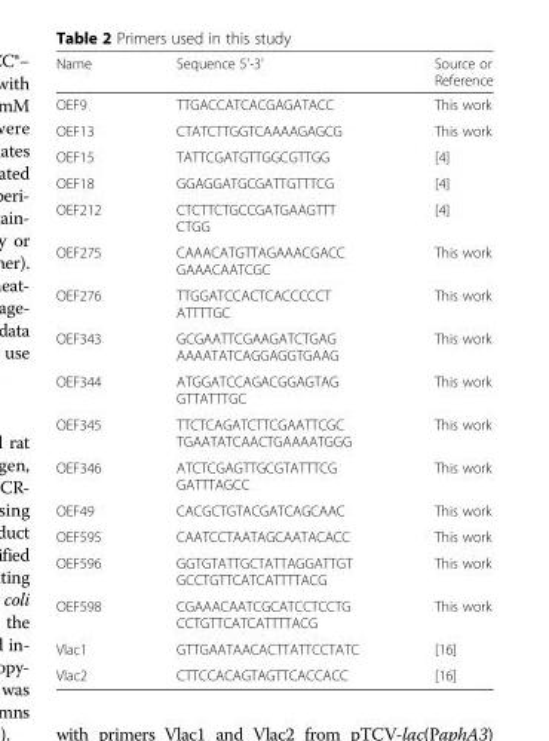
<table><thead><tr><td>Name</td><td>Sequence 5&#x27;-3&#x27;</td><td>Source or Reference</td></tr></thead><tbody><tr><td>OEF9</td><td>TTGACCATCACGAGATACC</td><td>This work</td></tr><tr><td>OEF13</td><td>CTATCTTGGTCAAAAGAGCG</td><td>This work</td></tr><tr><td>OEF15</td><td>TATTCGATGTTGGCGTTGG</td><td>[4]</td></tr><tr><td>OEF18</td><td>GGAGGATGCGATTGTTTCG</td><td>[4]</td></tr><tr><td>OEF212</td><td>CTCTTCTGCCGATGAAGTTT CTGG</td><td>[4]</td></tr><tr><td>OEF275</td><td>CAAACATGTTAGAAACGACC GAAACAATCGC</td><td>This work</td></tr><tr><td>OEF276</td><td>TTGGATCCACTCACCCCCT ATTTTGC</td><td>This work</td></tr><tr><td>OEF343</td><td>GCGAATTCGAAGATCTGAG AAAATATCAGGAGGTGAAG</td><td>This work</td></tr><tr><td>OEF344</td><td>ATGGATCCAGACGGAGTAG GTTATTTGC</td><td>This work</td></tr><tr><td>OEF345</td><td>TTCTCAGATCTTCGAATTCGC TGAATATCAACTGAAAATGGG</td><td>This work</td></tr><tr><td>OEF346</td><td>ATCTCGAGTTGCGTATTTCG GATTTAGCC</td><td>This work</td></tr><tr><td>OEF49</td><td>CACGCTGTACGATCAGCAAC</td><td>This work</td></tr><tr><td>OEF595</td><td>CAATCCTAATAGCAATACACC</td><td>This work</td></tr><tr><td>OEF596</td><td>GGTGTATTGCTATTAGGATTGT GCCTGTTCATCATTTTACG</td><td>This work</td></tr><tr><td>OEF598</td><td>CGAAACAATCGCATCCTCCTG CCTGTTCATCATTTTACG</td><td>This work</td></tr><tr><td>Vlac1</td><td>GTTGAATAACACTTATTCCTATC</td><td>[16]</td></tr><tr><td>Vlac2</td><td>CTTCCACAGTAGTTCACCACC</td><td>[16]</td></tr></tbody></table>